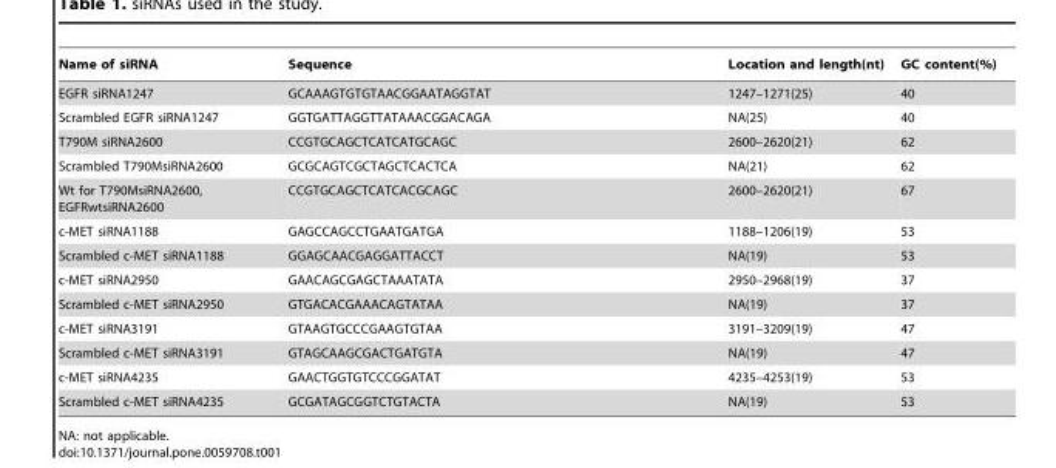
<table><thead><tr><td>Name of siRNA</td><td>Sequence</td><td>Location and length(nt)</td><td>GC content(%)</td></tr></thead><tbody><tr><td>EGFR siRNA1247</td><td>GCAAAGTGTGTAACGGAATAGGTAT</td><td>1247–1271(25)</td><td>40</td></tr><tr><td>Scrambled EGFR siRNA1247</td><td>GGTGATTAGGTTATAAACGGACAGA</td><td>NA(25)</td><td>40</td></tr><tr><td>T790M siRNA2600</td><td>CCGTGCAGCTCATCATGCAGC</td><td>2600–2620(21)</td><td>62</td></tr><tr><td>Scrambled T790MsiRNA2600</td><td>GCGCAGTCGCTAGCTCACTCA</td><td>NA(21)</td><td>62</td></tr><tr><td>Wt for T790MsiRNA2600, EGFRwtsiRNA2600</td><td>CCGTGCAGCTCATCACGCAGC</td><td>2600–2620(21)</td><td>67</td></tr><tr><td>c-MET siRNA1188</td><td>GAGCCAGCCTGAATGATGA</td><td>1188–1206(19)</td><td>53</td></tr><tr><td>Scrambled c-MET siRNA1188</td><td>GGAGCAACGAGGATTACCT</td><td>NA(19)</td><td>53</td></tr><tr><td>c-MET siRNA2950</td><td>GAACAGCGAGCTAAATATA</td><td>2950–2968(19)</td><td>37</td></tr><tr><td>Scrambled c-MET siRNA2950</td><td>GTGACACGAAACAGTATAA</td><td>NA(19)</td><td>37</td></tr><tr><td>c-MET siRNA3191</td><td>GTAAGTGCCCGAAGTGTAA</td><td>3191–3209(19)</td><td>47</td></tr><tr><td>Scrambled c-MET siRNA3191</td><td>GTAGCAAGCGACTGATGTA</td><td>NA(19)</td><td>47</td></tr><tr><td>c-MET siRNA4235</td><td>GAACTGGTGTCCCGGATAT</td><td>4235–4253(19)</td><td>53</td></tr><tr><td>Scrambled c-MET siRNA4235</td><td>GCGATAGCGGTCTGTACTA</td><td>NA(19)</td><td>53</td></tr></tbody></table>